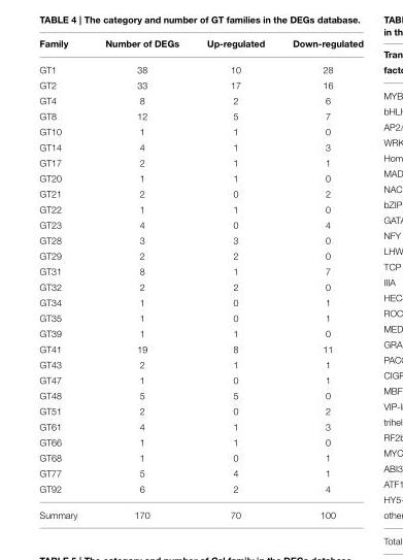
<table><thead><tr><td>Family</td><td>Number of DEGs</td><td>Up-regulated</td><td>Down-regulated</td></tr></thead><tbody><tr><td>GT1</td><td>38</td><td>10</td><td>28</td></tr><tr><td>GT2</td><td>33</td><td>17</td><td>16</td></tr><tr><td>GT4</td><td>8</td><td>2</td><td>6</td></tr><tr><td>GT8</td><td>12</td><td>5</td><td>7</td></tr><tr><td>GT10</td><td>1</td><td>1</td><td>0</td></tr><tr><td>GT14</td><td>4</td><td>1</td><td>3</td></tr><tr><td>GT17</td><td>2</td><td>1</td><td>1</td></tr><tr><td>GT20</td><td>1</td><td>1</td><td>0</td></tr><tr><td>GT21</td><td>2</td><td>0</td><td>2</td></tr><tr><td>GT22</td><td>1</td><td>1</td><td>0</td></tr><tr><td>GT23</td><td>4</td><td>0</td><td>4</td></tr><tr><td>GT28</td><td>3</td><td>3</td><td>0</td></tr><tr><td>GT29</td><td>2</td><td>2</td><td>0</td></tr><tr><td>GT31</td><td>8</td><td>1</td><td>7</td></tr><tr><td>GT32</td><td>2</td><td>2</td><td>0</td></tr><tr><td>GT34</td><td>1</td><td>0</td><td>1</td></tr><tr><td>GT35</td><td>1</td><td>0</td><td>1</td></tr><tr><td>GT39</td><td>1</td><td>1</td><td>0</td></tr><tr><td>GT41</td><td>19</td><td>8</td><td>11</td></tr><tr><td>GT43</td><td>2</td><td>1</td><td>1</td></tr><tr><td>GT47</td><td>1</td><td>0</td><td>1</td></tr><tr><td>GT48</td><td>5</td><td>5</td><td>0</td></tr><tr><td>GT51</td><td>2</td><td>0</td><td>2</td></tr><tr><td>GT61</td><td>4</td><td>1</td><td>3</td></tr><tr><td>GT66</td><td>1</td><td>1</td><td>0</td></tr><tr><td>GT68</td><td>1</td><td>0</td><td>1</td></tr><tr><td>GT77</td><td>5</td><td>4</td><td>1</td></tr><tr><td>GT92</td><td>6</td><td>2</td><td>4</td></tr><tr><td>Summary</td><td>170</td><td>70</td><td>100</td></tr></tbody></table>